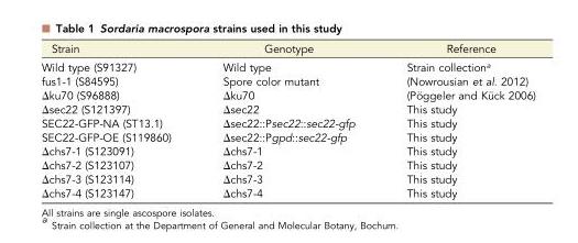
<table><thead><tr><td>Strain</td><td>Genotype</td><td>Reference</td></tr></thead><tbody><tr><td>Wild type (S91327)</td><td>Wild type</td><td>Strain collection<sup>a</sup></td></tr><tr><td>fus1-1 (S84595)</td><td>Spore color mutant</td><td>(Nowrousian et al. 2012)</td></tr><tr><td>∆ku70 (S96888)</td><td>∆ku70</td><td>(Pöggeler and Kück 2006)</td></tr><tr><td>∆sec22 (S121397)</td><td>∆sec22</td><td>This study</td></tr><tr><td>SEC22-GFP-NA (ST13.1)</td><td>∆sec22::Psec22::sec22-gfp</td><td>This study</td></tr><tr><td>SEC22-GFP-OE (S119860)</td><td>∆sec22::Pgpd::sec22-gfp</td><td>This study</td></tr><tr><td>∆chs7-1 (S123091)</td><td>∆chs7-1</td><td>This study</td></tr><tr><td>∆chs7-2 (S123107)</td><td>∆chs7-2</td><td>This study</td></tr><tr><td>∆chs7-3 (S123114)</td><td>∆chs7-3</td><td>This study</td></tr><tr><td>∆chs7-4 (S123147)</td><td>∆chs7-4</td><td>This study</td></tr></tbody></table>